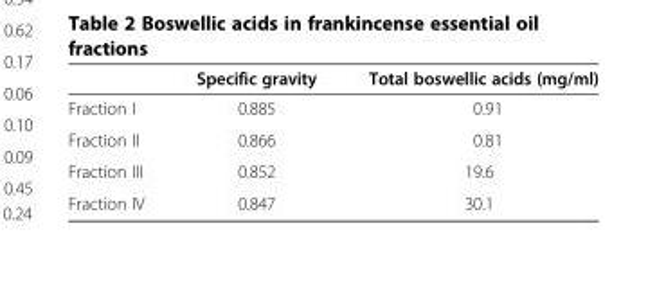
<table><thead><tr><td></td><td>Specific gravity</td><td>Total boswellic acids (mg/ml)</td></tr></thead><tbody><tr><td>Fraction I</td><td>0.885</td><td>0.91</td></tr><tr><td>Fraction II</td><td>0.866</td><td>0.81</td></tr><tr><td>Fraction III</td><td>0.852</td><td>19.6</td></tr><tr><td>Fraction IV</td><td>0.847</td><td>30.1</td></tr></tbody></table>